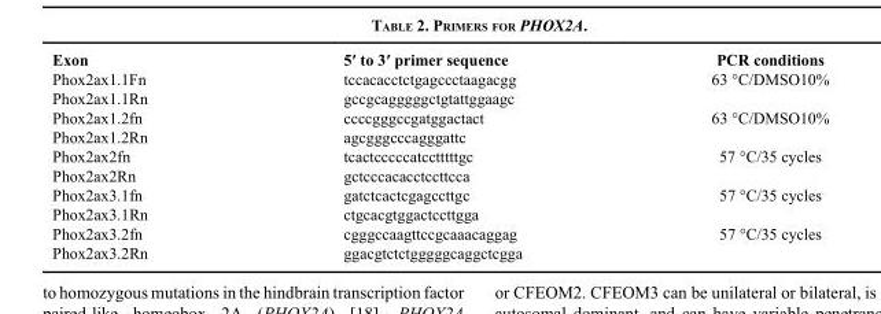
<table><thead><tr><td>Exon</td><td>5′ to 3′ primer sequence</td><td>PCR conditions</td></tr></thead><tbody><tr><td>Phox2ax1.1Fn</td><td>tccacacctctgagccctaagacgg</td><td>63 °C/DMSO10%</td></tr><tr><td>Phox2ax1.1Rn</td><td>gccgcagggggctgtattggaagc</td><td></td></tr><tr><td>Phox2ax1.2fn</td><td>ccccgggccgatggactact</td><td>63 °C/DMSO10%</td></tr><tr><td>Phox2ax1.2Rn</td><td>agcgggcccagggattc</td><td></td></tr><tr><td>Phox2ax2fn</td><td>tcactcccccatcctttttgc</td><td>57 °C/35 cycles</td></tr><tr><td>Phox2ax2Rn</td><td>gctcccacacctccttcca</td><td></td></tr><tr><td>Phox2ax3.1fn</td><td>gatctcactcgagccttgc</td><td>57 °C/35 cycles</td></tr><tr><td>Phox2ax3.1Rn</td><td>ctgcacgtggactccttgga</td><td></td></tr><tr><td>Phox2ax3.2fn</td><td>cgggccaagttccgcaaacaggag</td><td>57 °C/35 cycles</td></tr><tr><td>Phox2ax3.2Rn</td><td>ggacgtctctgggggcaggctcgga</td><td></td></tr></tbody></table>